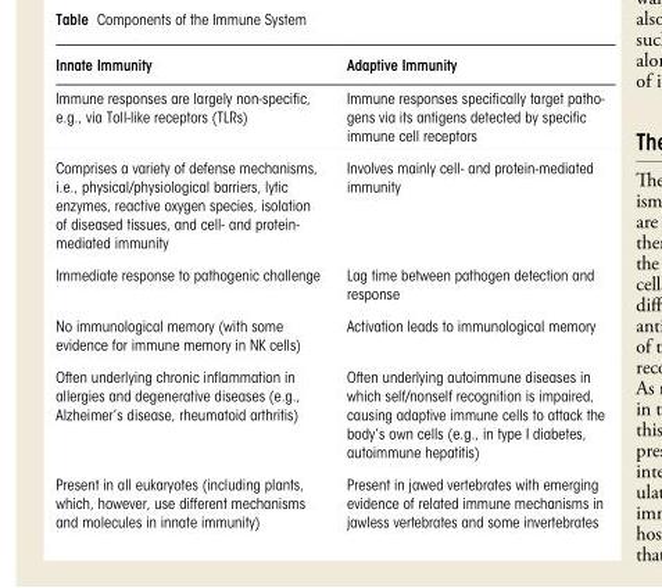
<table><thead><tr><td>Innate Immunity</td><td>Adaptive Immunity</td></tr></thead><tbody><tr><td>Immune responses are largely non-specific, e.g., via Toll-like receptors (TLRs)</td><td>Immune responses specifically target patho- gens via its antigens detected by specific immune cell receptors</td></tr><tr><td>Comprises a variety of defense mechanisms, i.e., physical/physiological barriers, lytic enzymes, reactive oxygen species, isolation of diseased tissues, and cell- and protein- mediated immunity</td><td>Involves mainly cell- and protein-mediated immunity</td></tr><tr><td>Immediate response to pathogenic challenge</td><td>Lag time between pathogen detection and response</td></tr><tr><td>No immunological memory (with some evidence for immune memory in NK cells)</td><td>Activation leads to immunological memory</td></tr><tr><td>Often underlying chronic inflammation in allergies and degenerative diseases (e.g., Alzheimer’s disease, rheumatoid arthritis)</td><td>Often underlying autoimmune diseases in which self/nonself recognition is impaired, causing adaptive immune cells to attack the body’s own cells (e.g., in type I diabetes, autoimmune hepatitis)</td></tr><tr><td>Present in all eukaryotes (including plants, which, however, use different mechanisms and molecules in innate immunity)</td><td>Present in jawed vertebrates with emerging evidence of related immune mechanisms in jawless vertebrates and some invertebrates</td></tr></tbody></table>